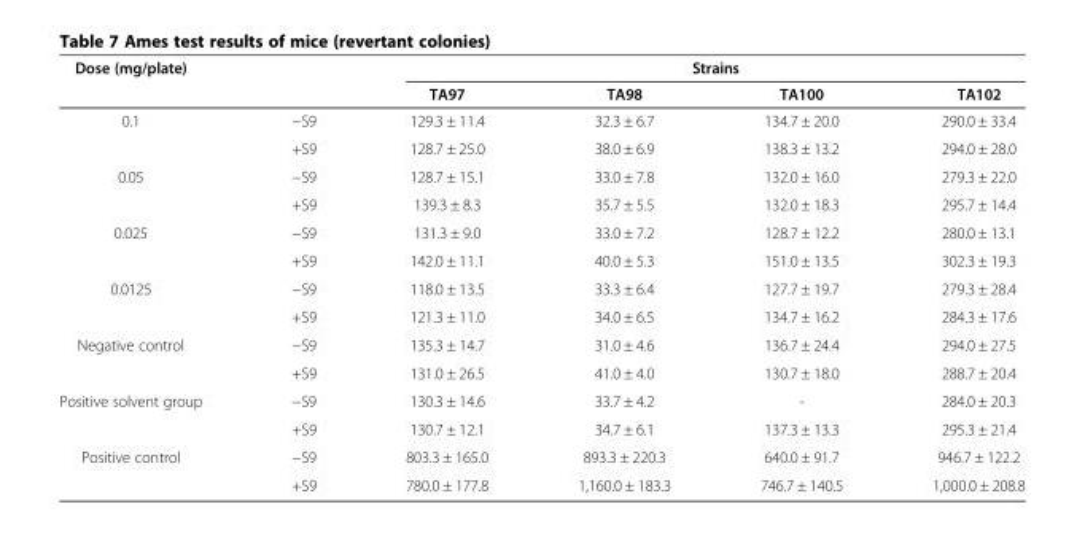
<table><thead><tr><td rowspan="2">Dose (mg/plate)</td><td rowspan="2"></td><td colspan="4">Strains</td></tr><tr><td>TA97</td><td>TA98</td><td>TA100</td><td>TA102</td></tr></thead><tbody><tr><td rowspan="2">0.1</td><td>−S9</td><td>129.3 ± 11.4</td><td>32.3 ± 6.7</td><td>134.7 ± 20.0</td><td>290.0 ± 33.4</td></tr><tr><td>+S9</td><td>128.7 ± 25.0</td><td>38.0 ± 6.9</td><td>138.3 ± 13.2</td><td>294.0 ± 28.0</td></tr><tr><td rowspan="2">0.05</td><td>−S9</td><td>128.7 ± 15.1</td><td>33.0 ± 7.8</td><td>132.0 ± 16.0</td><td>279.3 ± 22.0</td></tr><tr><td>+S9</td><td>139.3 ± 8.3</td><td>35.7 ± 5.5</td><td>132.0 ± 18.3</td><td>295.7 ± 14.4</td></tr><tr><td rowspan="2">0.025</td><td>−S9</td><td>131.3 ± 9.0</td><td>33.0 ± 7.2</td><td>128.7 ± 12.2</td><td>280.0 ± 13.1</td></tr><tr><td>+S9</td><td>142.0 ± 11.1</td><td>40.0 ± 5.3</td><td>151.0 ± 13.5</td><td>302.3 ± 19.3</td></tr><tr><td rowspan="2">0.0125</td><td>−S9</td><td>118.0 ± 13.5</td><td>33.3 ± 6.4</td><td>127.7 ± 19.7</td><td>279.3 ± 28.4</td></tr><tr><td>+S9</td><td>121.3 ± 11.0</td><td>34.0 ± 6.5</td><td>134.7 ± 16.2</td><td>284.3 ± 17.6</td></tr><tr><td rowspan="2">Negative control</td><td>−S9</td><td>135.3 ± 14.7</td><td>31.0 ± 4.6</td><td>136.7 ± 24.4</td><td>294.0 ± 27.5</td></tr><tr><td>+S9</td><td>131.0 ± 26.5</td><td>41.0 ± 4.0</td><td>130.7 ± 18.0</td><td>288.7 ± 20.4</td></tr><tr><td rowspan="2">Positive solvent group</td><td>−S9</td><td>130.3 ± 14.6</td><td>33.7 ± 4.2</td><td>-</td><td>284.0 ± 20.3</td></tr><tr><td>+S9</td><td>130.7 ± 12.1</td><td>34.7 ± 6.1</td><td>137.3 ± 13.3</td><td>295.3 ± 21.4</td></tr><tr><td rowspan="2">Positive control</td><td>−S9</td><td>803.3 ± 165.0</td><td>893.3 ± 220.3</td><td>640.0 ± 91.7</td><td>946.7 ± 122.2</td></tr><tr><td>+S9</td><td>780.0 ± 177.8</td><td>1,160.0 ± 183.3</td><td>746.7 ± 140.5</td><td>1,000.0 ± 208.8</td></tr></tbody></table>